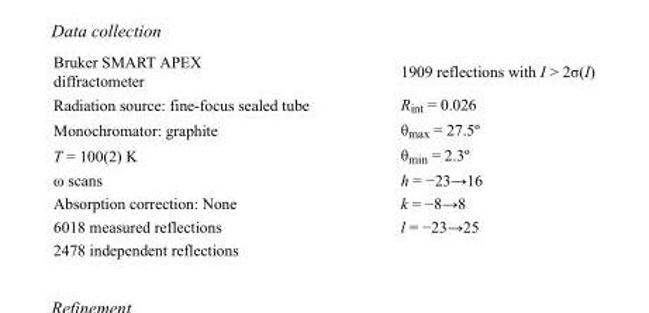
<table><tbody><tr><td>Bruker SMART APEX diffractometer</td><td>1909 reflections with I &gt; 2σ(I)</td></tr><tr><td>Radiation source: fine-focus sealed tube</td><td>R<sub>int</sub> = 0.026</td></tr><tr><td>Monochromator: graphite</td><td>θ<sub>max</sub> = 27.5º</td></tr><tr><td>T = 100(2) K</td><td>θ<sub>min</sub> = 2.3º</td></tr><tr><td>ω scans</td><td>h = −23→16</td></tr><tr><td>Absorption correction: None</td><td>k = −8→8</td></tr><tr><td>6018 measured reflections</td><td>l = −23→25</td></tr><tr><td>2478 independent reflections</td><td></td></tr></tbody></table>